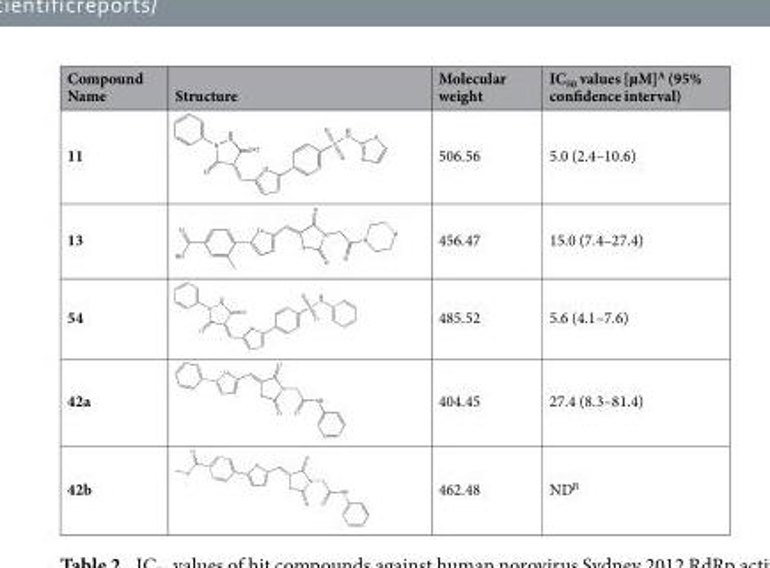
<table><thead><tr><td>Compound Name</td><td>Structure</td><td>Molecular weight</td><td>IC<sub>50</sub> values [µM]<sup>A</sup> (95% confidence interval)</td></tr></thead><tbody><tr><td>11</td><td></td><td>506.56</td><td>5.0 (2.4–10.6)</td></tr><tr><td>13</td><td></td><td>456.47</td><td>15.0 (7.4–27.4)</td></tr><tr><td>54</td><td></td><td>485.52</td><td>5.6 (4.1–7.6)</td></tr><tr><td>42a</td><td></td><td>404.45</td><td>27.4 (8.3–81.4)</td></tr><tr><td>42b</td><td></td><td>462.48</td><td>ND<sup>B</sup></td></tr></tbody></table>